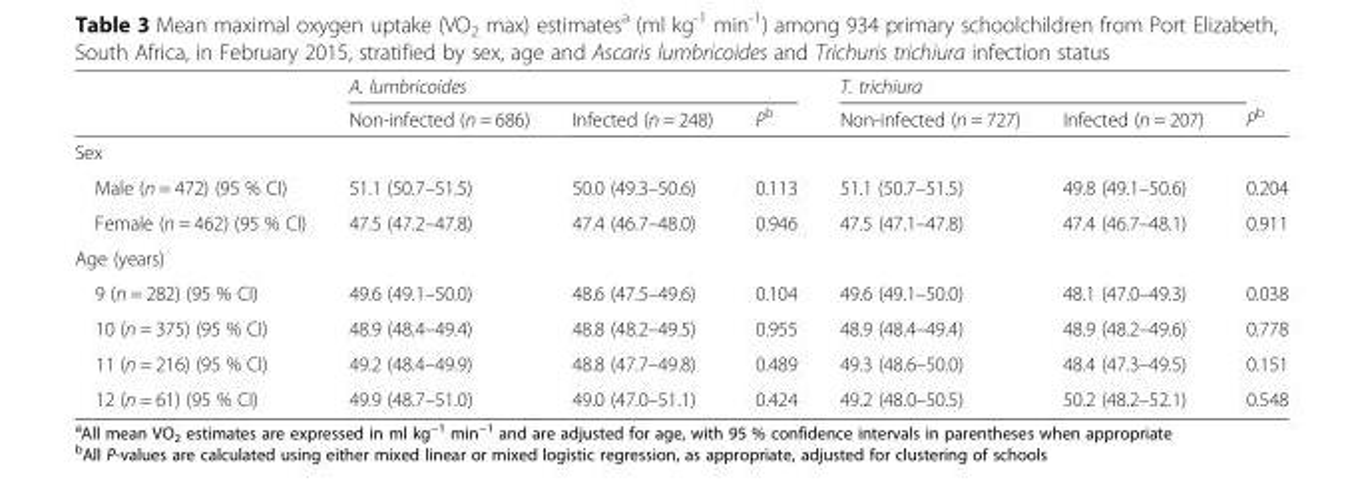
<table><thead><tr><td rowspan="2"></td><td colspan="2">A. lumbricoides</td><td rowspan="2">P<sup>b</sup></td><td colspan="2">T. trichiura</td><td rowspan="2">P<sup>b</sup></td></tr><tr><td>Non-infected (n = 686)</td><td>Infected (n = 248)</td><td>Non-infected (n = 727)</td><td>Infected (n = 207)</td></tr></thead><tbody><tr><td colspan="7">Sex</td></tr><tr><td>Male (n = 472) (95 % CI)</td><td>51.1 (50.7–51.5)</td><td>50.0 (49.3–50.6)</td><td>0.113</td><td>51.1 (50.7–51.5)</td><td>49.8 (49.1–50.6)</td><td>0.204</td></tr><tr><td>Female (n = 462) (95 % CI)</td><td>47.5 (47.2–47.8)</td><td>47.4 (46.7–48.0)</td><td>0.946</td><td>47.5 (47.1–47.8)</td><td>47.4 (46.7–48.1)</td><td>0.911</td></tr><tr><td colspan="7">Age (years)</td></tr><tr><td>9 (n = 282) (95 % CI)</td><td>49.6 (49.1–50.0)</td><td>48.6 (47.5–49.6)</td><td>0.104</td><td>49.6 (49.1–50.0)</td><td>48.1 (47.0–49.3)</td><td>0.038</td></tr><tr><td>10 (n = 375) (95 % CI)</td><td>48.9 (48.4–49.4)</td><td>48.8 (48.2–49.5)</td><td>0.955</td><td>48.9 (48.4–49.4)</td><td>48.9 (48.2–49.6)</td><td>0.778</td></tr><tr><td>11 (n = 216) (95 % CI)</td><td>49.2 (48.4–49.9)</td><td>48.8 (47.7–49.8)</td><td>0.489</td><td>49.3 (48.6–50.0)</td><td>48.4 (47.3–49.5)</td><td>0.151</td></tr><tr><td>12 (n = 61) (95 % CI)</td><td>49.9 (48.7–51.0)</td><td>49.0 (47.0–51.1)</td><td>0.424</td><td>49.2 (48.0–50.5)</td><td>50.2 (48.2–52.1)</td><td>0.548</td></tr></tbody></table>